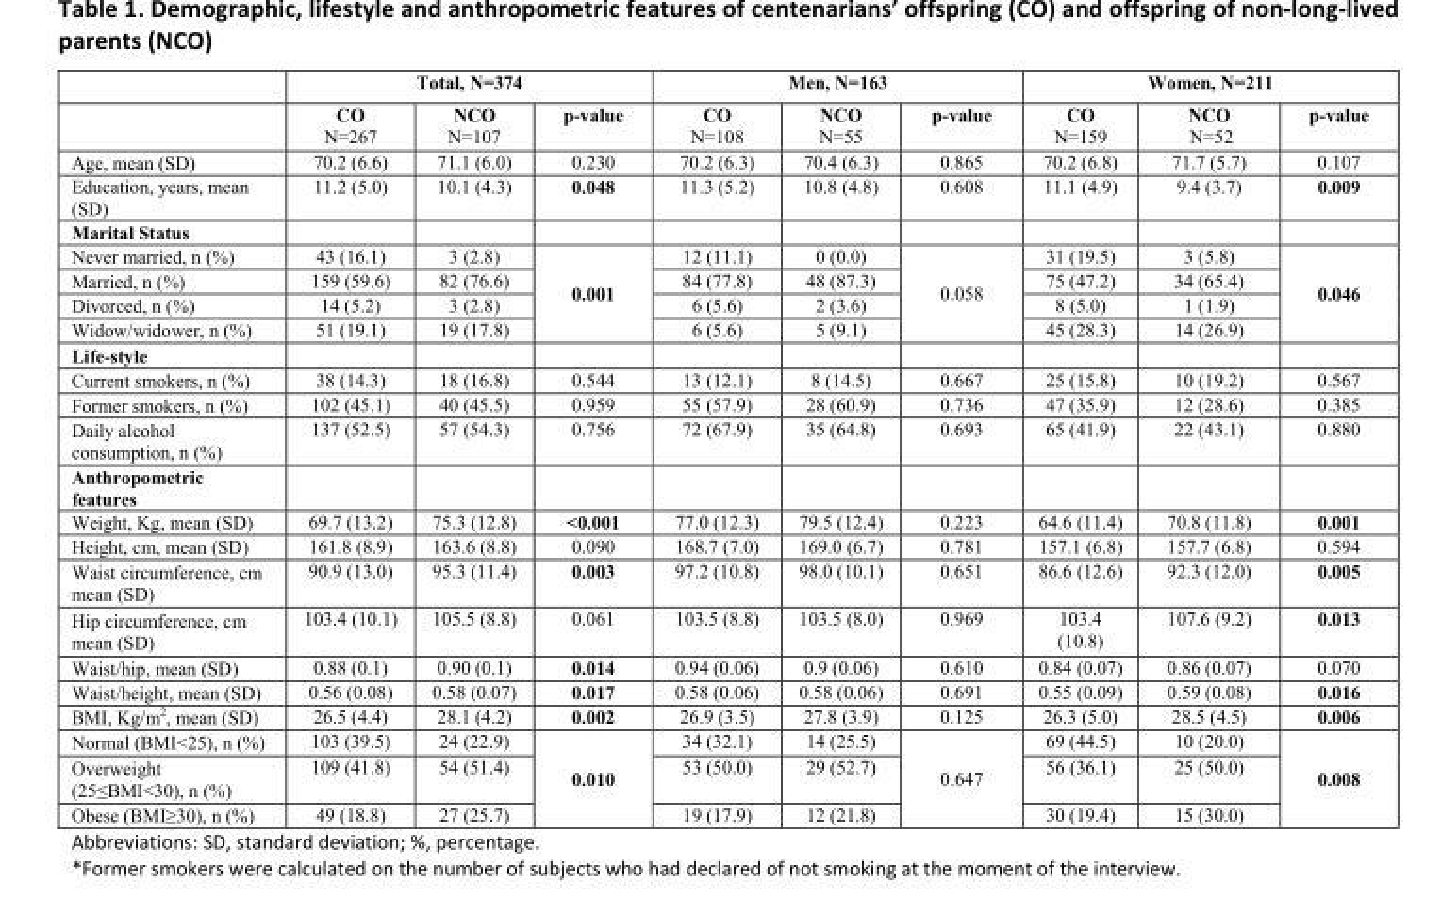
<table><thead><tr><td rowspan="2"></td><td colspan="3">Total, N=374</td><td colspan="3">Men, N=163</td><td colspan="3">Women, N=211</td></tr><tr><td>CO N=267</td><td>NCO N=107</td><td>p-value</td><td>CO N=108</td><td>NCO N=55</td><td>p-value</td><td>CO N=159</td><td>NCO N=52</td><td>p-value</td></tr></thead><tbody><tr><td>Age, mean (SD)</td><td>70.2 (6.6)</td><td>71.1 (6.0)</td><td>0.230</td><td>70.2 (6.3)</td><td>70.4 (6.3)</td><td>0.865</td><td>70.2 (6.8)</td><td>71.7 (5.7)</td><td>0.107</td></tr><tr><td>Education, years, mean (SD)</td><td>11.2 (5.0)</td><td>10.1 (4.3)</td><td>0.048</td><td>11.3 (5.2)</td><td>10.8 (4.8)</td><td>0.608</td><td>11.1 (4.9)</td><td>9.4 (3.7)</td><td>0.009</td></tr><tr><td colspan="10">Marital Status</td></tr><tr><td>Never married, n (%)</td><td>43 (16.1)</td><td>3 (2.8)</td><td rowspan="4">0.001</td><td>12 (11.1)</td><td>0 (0.0)</td><td rowspan="4">0.058</td><td>31 (19.5)</td><td>3 (5.8)</td><td rowspan="4">0.046</td></tr><tr><td>Married, n (%)</td><td>159 (59.6)</td><td>82 (76.6)</td><td>84 (77.8)</td><td>48 (87.3)</td><td>75 (47.2)</td><td>34 (65.4)</td></tr><tr><td>Divorced, n (%)</td><td>14 (5.2)</td><td>3 (2.8)</td><td>6 (5.6)</td><td>2 (3.6)</td><td>8 (5.0)</td><td>1 (1.9)</td></tr><tr><td>Widow/widower, n (%)</td><td>51 (19.1)</td><td>19 (17.8)</td><td>6 (5.6)</td><td>5 (9.1)</td><td>45 (28.3)</td><td>14 (26.9)</td></tr><tr><td colspan="10">Life-style</td></tr><tr><td>Current smokers, n (%)</td><td>38 (14.3)</td><td>18 (16.8)</td><td>0.544</td><td>13 (12.1)</td><td>8 (14.5)</td><td>0.667</td><td>25 (15.8)</td><td>10 (19.2)</td><td>0.567</td></tr><tr><td>Former smokers, n (%)</td><td>102 (45.1)</td><td>40 (45.5)</td><td>0.959</td><td>55 (57.9)</td><td>28 (60.9)</td><td>0.736</td><td>47 (35.9)</td><td>12 (28.6)</td><td>0.385</td></tr><tr><td>Daily alcohol consumption, n (%)</td><td>137 (52.5)</td><td>57 (54.3)</td><td>0.756</td><td>72 (67.9)</td><td>35 (64.8)</td><td>0.693</td><td>65 (41.9)</td><td>22 (43.1)</td><td>0.880</td></tr><tr><td colspan="10">Anthropometric features</td></tr><tr><td>Weight, Kg, mean (SD)</td><td>69.7 (13.2)</td><td>75.3 (12.8)</td><td>&lt;0.001</td><td>77.0 (12.3)</td><td>79.5 (12.4)</td><td>0.223</td><td>64.6 (11.4)</td><td>70.8 (11.8)</td><td>0.001</td></tr><tr><td>Height, cm, mean (SD)</td><td>161.8 (8.9)</td><td>163.6 (8.8)</td><td>0.090</td><td>168.7 (7.0)</td><td>169.0 (6.7)</td><td>0.781</td><td>157.1 (6.8)</td><td>157.7 (6.8)</td><td>0.594</td></tr><tr><td>Waist circumference, cm mean (SD)</td><td>90.9 (13.0)</td><td>95.3 (11.4)</td><td>0.003</td><td>97.2 (10.8)</td><td>98.0 (10.1)</td><td>0.651</td><td>86.6 (12.6)</td><td>92.3 (12.0)</td><td>0.005</td></tr><tr><td>Hip circumference, cm mean (SD)</td><td>103.4 (10.1)</td><td>105.5 (8.8)</td><td>0.061</td><td>103.5 (8.8)</td><td>103.5 (8.0)</td><td>0.969</td><td>103.4 (10.8)</td><td>107.6 (9.2)</td><td>0.013</td></tr><tr><td>Waist/hip, mean (SD)</td><td>0.88 (0.1)</td><td>0.90 (0.1)</td><td>0.014</td><td>0.94 (0.06)</td><td>0.9 (0.06)</td><td>0.610</td><td>0.84 (0.07)</td><td>0.86 (0.07)</td><td>0.070</td></tr><tr><td>Waist/height, mean (SD)</td><td>0.56 (0.08)</td><td>0.58 (0.07)</td><td>0.017</td><td>0.58 (0.06)</td><td>0.58 (0.06)</td><td>0.691</td><td>0.55 (0.09)</td><td>0.59 (0.08)</td><td>0.016</td></tr><tr><td>BMI, Kg/m<sup>2</sup>, mean (SD)</td><td>26.5 (4.4)</td><td>28.1 (4.2)</td><td>0.002</td><td>26.9 (3.5)</td><td>27.8 (3.9)</td><td>0.125</td><td>26.3 (5.0)</td><td>28.5 (4.5)</td><td>0.006</td></tr><tr><td>Normal (BMI&lt;25), n (%)</td><td>103 (39.5)</td><td>24 (22.9)</td><td rowspan="3">0.010</td><td>34 (32.1)</td><td>14 (25.5)</td><td rowspan="3">0.647</td><td>69 (44.5)</td><td>10 (20.0)</td><td rowspan="3">0.008</td></tr><tr><td>Overweight (25≤BMI&lt;30), n (%)</td><td>109 (41.8)</td><td>54 (51.4)</td><td>53 (50.0)</td><td>29 (52.7)</td><td>56 (36.1)</td><td>25 (50.0)</td></tr><tr><td>Obese (BMI≥30), n (%)</td><td>49 (18.8)</td><td>27 (25.7)</td><td>19 (17.9)</td><td>12 (21.8)</td><td>30 (19.4)</td><td>15 (30.0)</td></tr></tbody></table>